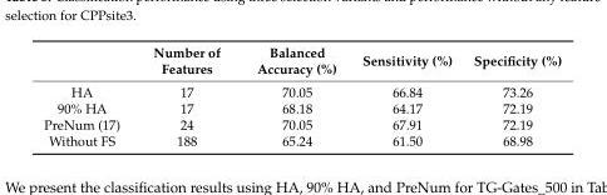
<table><thead><tr><td></td><td>Number of Features</td><td>Balanced Accuracy (%)</td><td>Sensitivity (%)</td><td>Specificity (%)</td></tr></thead><tbody><tr><td>HA</td><td>17</td><td>70.05</td><td>66.84</td><td>73.26</td></tr><tr><td>90% HA</td><td>17</td><td>68.18</td><td>64.17</td><td>72.19</td></tr><tr><td>PreNum (17)</td><td>24</td><td>70.05</td><td>67.91</td><td>72.19</td></tr><tr><td>Without FS</td><td>188</td><td>65.24</td><td>61.50</td><td>68.98</td></tr></tbody></table>